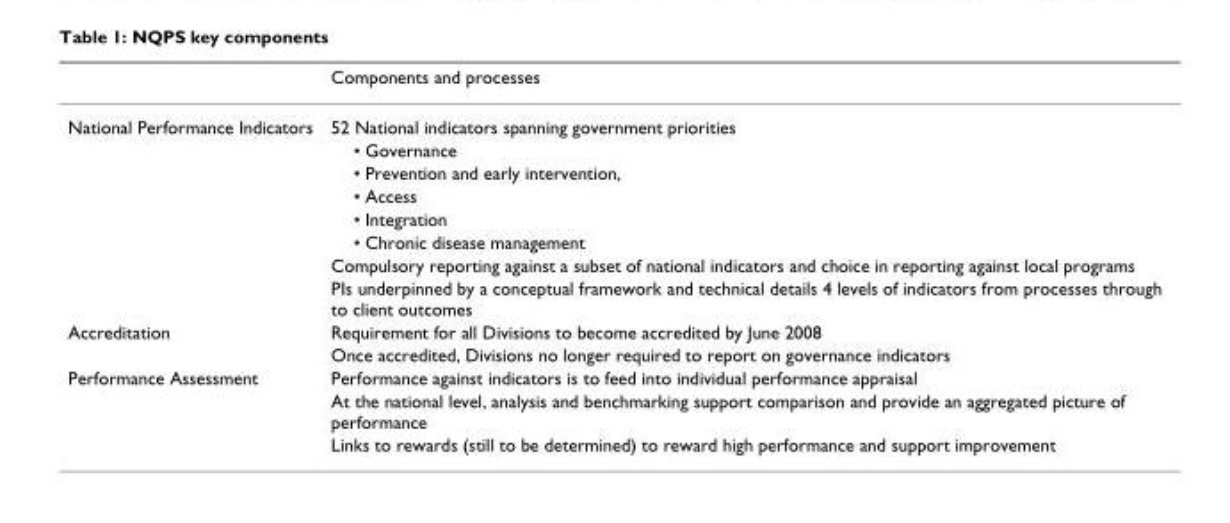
<table><thead><tr><td></td><td>Components and processes</td></tr></thead><tbody><tr><td rowspan="8">National Performance Indicators</td><td>52 National indicators spanning government priorities</td></tr><tr><td>• Governance</td></tr><tr><td>• Prevention and early intervention,</td></tr><tr><td>• Access</td></tr><tr><td>• Integration</td></tr><tr><td>• Chronic disease management</td></tr><tr><td>Compulsory reporting against a subset of national indicators and choice in reporting against local programs</td></tr><tr><td>PIs underpinned by a conceptual framework and technical details 4 levels of indicators from processes through to client outcomes</td></tr><tr><td rowspan="2">Accreditation</td><td>Requirement for all Divisions to become accredited by June 2008</td></tr><tr><td>Once accredited, Divisions no longer required to report on governance indicators</td></tr><tr><td rowspan="3">Performance Assessment</td><td>Performance against indicators is to feed into individual performance appraisal</td></tr><tr><td>At the national level, analysis and benchmarking support comparison and provide an aggregated picture of performance</td></tr><tr><td>Links to rewards (still to be determined) to reward high performance and support improvement</td></tr></tbody></table>